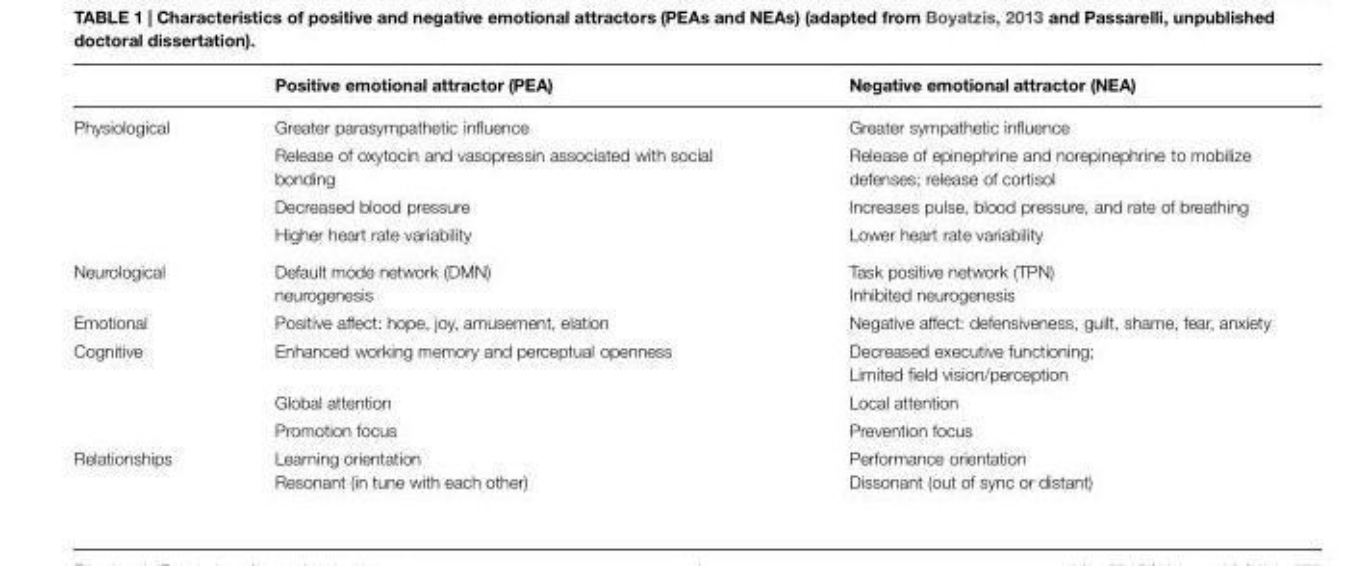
<table><thead><tr><td></td><td>Positive emotional attractor (PEA)</td><td>Negative emotional attractor (NEA)</td></tr></thead><tbody><tr><td rowspan="4">Physiological</td><td>Greater parasympathetic influence</td><td>Greater sympathetic influence</td></tr><tr><td>Release of oxytocin and vasopressin associated with social bonding</td><td>Release of epinephrine and norepinephrine to mobilize defenses; release of cortisol</td></tr><tr><td>Decreased blood pressure</td><td>Increases pulse, blood pressure, and rate of breathing</td></tr><tr><td>Higher heart rate variability</td><td>Lower heart rate variability</td></tr><tr><td>Neurological</td><td>Default mode network (DMN) neurogenesis</td><td>Task positive network (TPN) Inhibited neurogenesis</td></tr><tr><td>Emotional</td><td>Positive affect: hope, joy, amusement, elation</td><td>Negative affect: defensiveness, guilt, shame, fear, anxiety</td></tr><tr><td rowspan="3">Cognitive</td><td>Enhanced working memory and perceptual openness</td><td>Decreased executive functioning; Limited field vision/perception</td></tr><tr><td>Global attention</td><td>Local attention</td></tr><tr><td>Promotion focus</td><td>Prevention focus</td></tr><tr><td>Relationships</td><td>Learning orientation Resonant (in tune with each other)</td><td>Performance orientation Dissonant (out of sync or distant)</td></tr></tbody></table>